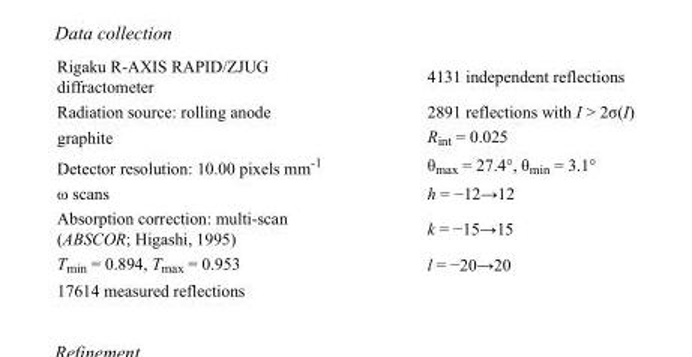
<table><tbody><tr><td>Rigaku R-AXIS RAPID/ZJUG diffractometer</td><td>4131 independent reflections</td></tr><tr><td>Radiation source: rolling anode</td><td>2891 reflections with I &gt; 2σ(I)</td></tr><tr><td>graphite</td><td>R<sub>int</sub> = 0.025</td></tr><tr><td>Detector resolution: 10.00 pixels mm<sup>-1</sup></td><td>θ<sub>max</sub> = 27.4°, θ<sub>min</sub> = 3.1°</td></tr><tr><td>ω scans</td><td>h = −12→12</td></tr><tr><td>Absorption correction: multi-scan (ABSCOR; Higashi, 1995)</td><td>k = −15→15</td></tr><tr><td>T<sub>min</sub> = 0.894, T<sub>max</sub> = 0.953</td><td>l = −20→20</td></tr><tr><td>17614 measured reflections</td><td></td></tr></tbody></table>